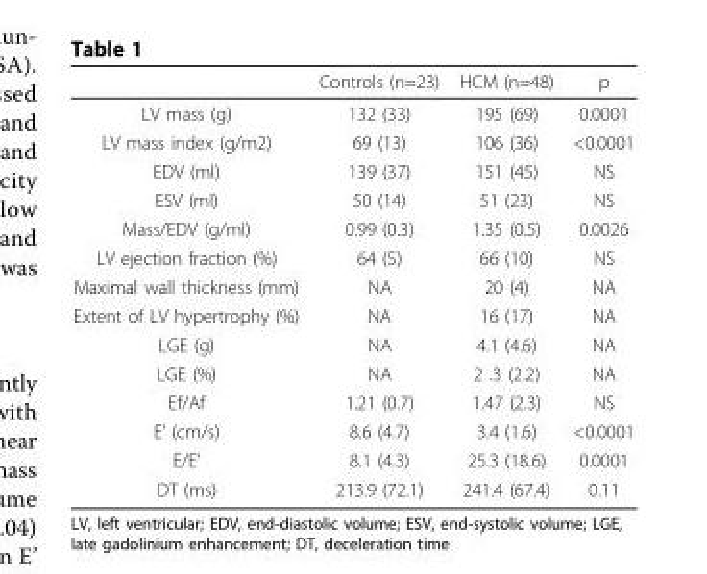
<table><thead><tr><td></td><td>Controls (n=23)</td><td>HCM (n=48)</td><td>p</td></tr></thead><tbody><tr><td>LV mass (g)</td><td>132 (33)</td><td>195 (69)</td><td>0.0001</td></tr><tr><td>LV mass index (g/m2)</td><td>69 (13)</td><td>106 (36)</td><td>&lt;0.0001</td></tr><tr><td>EDV (ml)</td><td>139 (37)</td><td>151 (45)</td><td>NS</td></tr><tr><td>ESV (ml)</td><td>50 (14)</td><td>51 (23)</td><td>NS</td></tr><tr><td>Mass/EDV (g/ml)</td><td>0.99 (0.3)</td><td>1.35 (0.5)</td><td>0.0026</td></tr><tr><td>LV ejection fraction (%)</td><td>64 (5)</td><td>66 (10)</td><td>NS</td></tr><tr><td>Maximal wall thickness (mm)</td><td>NA</td><td>20 (4)</td><td>NA</td></tr><tr><td>Extent of LV hypertrophy (%)</td><td>NA</td><td>16 (17)</td><td>NA</td></tr><tr><td>LGE (g)</td><td>NA</td><td>4.1 (4.6)</td><td>NA</td></tr><tr><td>LGE (%)</td><td>NA</td><td>2 .3 (2.2)</td><td>NA</td></tr><tr><td>Ef/Af</td><td>1.21 (0.7)</td><td>1.47 (2.3)</td><td>NS</td></tr><tr><td>E’ (cm/s)</td><td>8.6 (4.7)</td><td>3.4 (1.6)</td><td>&lt;0.0001</td></tr><tr><td>E/E’</td><td>8.1 (4.3)</td><td>25.3 (18.6)</td><td>0.0001</td></tr><tr><td>DT (ms)</td><td>213.9 (72.1)</td><td>241.4 (67.4)</td><td>0.11</td></tr></tbody></table>